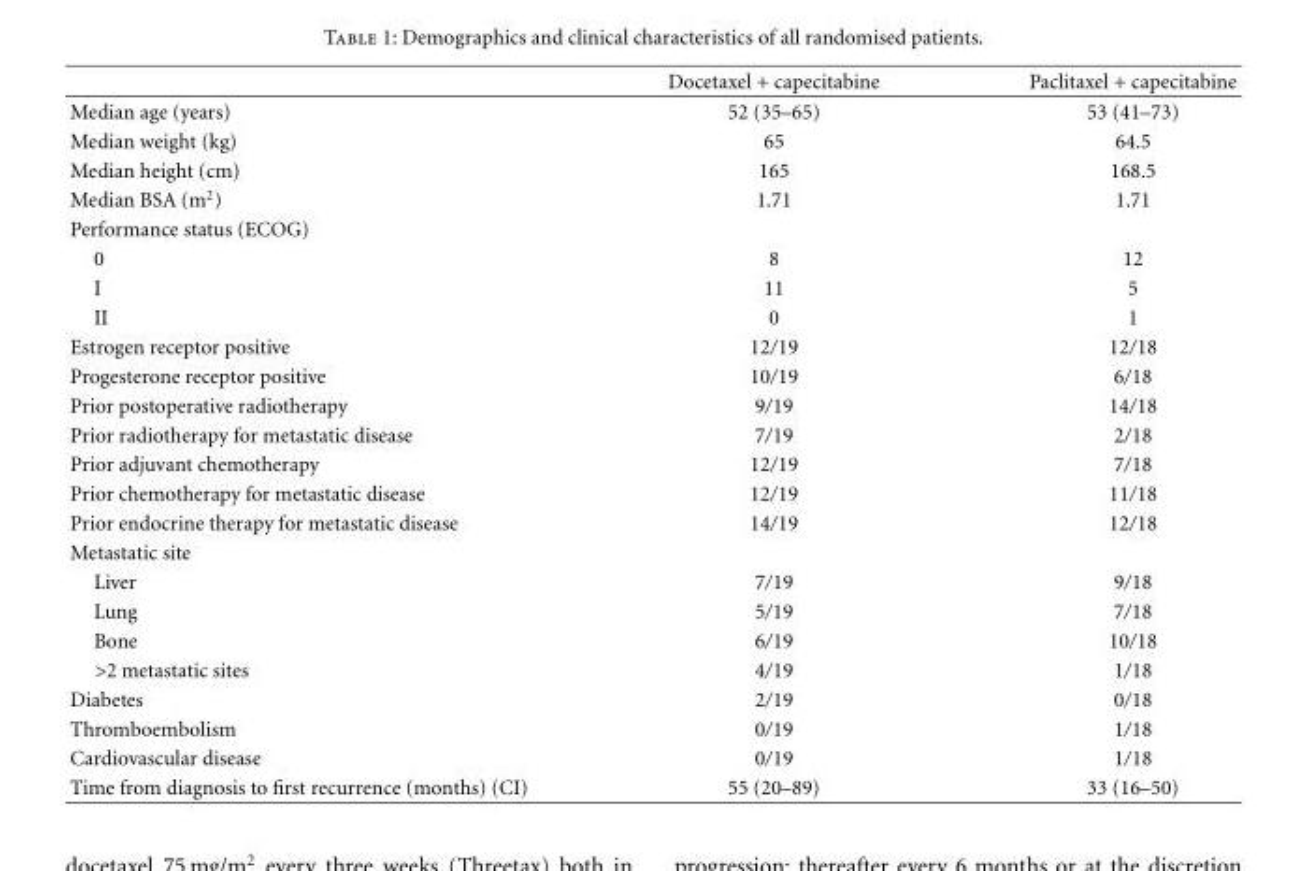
<table><thead><tr><td></td><td>Docetaxel + capecitabine</td><td>Paclitaxel + capecitabine</td></tr></thead><tbody><tr><td>Median age (years)</td><td>52 (35–65)</td><td>53 (41–73)</td></tr><tr><td>Median weight (kg)</td><td>65</td><td>64.5</td></tr><tr><td>Median height (cm)</td><td>165</td><td>168.5</td></tr><tr><td>Median BSA (m<sup>2</sup>)</td><td>1.71</td><td>1.71</td></tr><tr><td colspan="3">Performance status (ECOG)</td></tr><tr><td>0</td><td>8</td><td>12</td></tr><tr><td>I</td><td>11</td><td>5</td></tr><tr><td>II</td><td>0</td><td>1</td></tr><tr><td>Estrogen receptor positive</td><td>12/19</td><td>12/18</td></tr><tr><td>Progesterone receptor positive</td><td>10/19</td><td>6/18</td></tr><tr><td>Prior postoperative radiotherapy</td><td>9/19</td><td>14/18</td></tr><tr><td>Prior radiotherapy for metastatic disease</td><td>7/19</td><td>2/18</td></tr><tr><td>Prior adjuvant chemotherapy</td><td>12/19</td><td>7/18</td></tr><tr><td>Prior chemotherapy for metastatic disease</td><td>12/19</td><td>11/18</td></tr><tr><td>Prior endocrine therapy for metastatic disease</td><td>14/19</td><td>12/18</td></tr><tr><td colspan="3">Metastatic site</td></tr><tr><td>Liver</td><td>7/19</td><td>9/18</td></tr><tr><td>Lung</td><td>5/19</td><td>7/18</td></tr><tr><td>Bone</td><td>6/19</td><td>10/18</td></tr><tr><td>&gt;2 metastatic sites</td><td>4/19</td><td>1/18</td></tr><tr><td>Diabetes</td><td>2/19</td><td>0/18</td></tr><tr><td>Thromboembolism</td><td>0/19</td><td>1/18</td></tr><tr><td>Cardiovascular disease</td><td>0/19</td><td>1/18</td></tr><tr><td>Time from diagnosis to first recurrence (months) (CI)</td><td>55 (20–89)</td><td>33 (16–50)</td></tr></tbody></table>